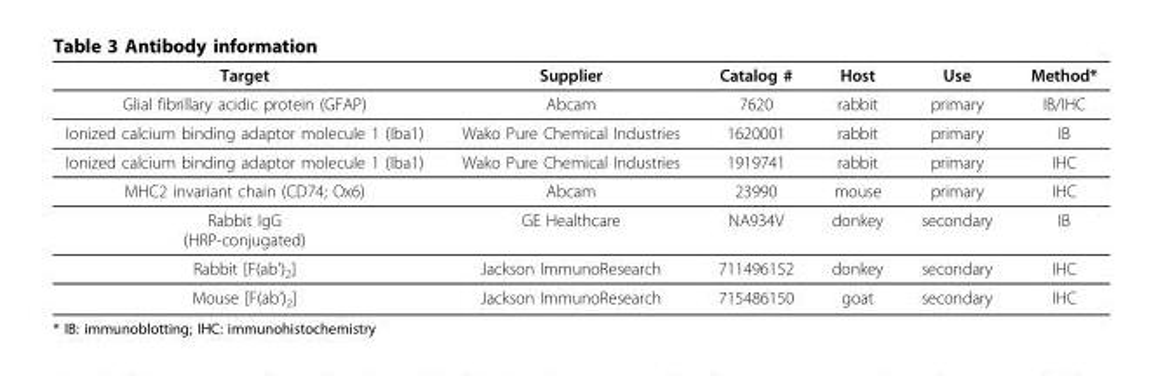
<table><thead><tr><td>Target</td><td>Supplier</td><td>Catalog #</td><td>Host</td><td>Use</td><td>Method*</td></tr></thead><tbody><tr><td>Glial fibrillary acidic protein (GFAP)</td><td>Abcam</td><td>7620</td><td>rabbit</td><td>primary</td><td>IB/IHC</td></tr><tr><td>Ionized calcium binding adaptor molecule 1 (Iba1)</td><td>Wako Pure Chemical Industries</td><td>1620001</td><td>rabbit</td><td>primary</td><td>IB</td></tr><tr><td>Ionized calcium binding adaptor molecule 1 (Iba1)</td><td>Wako Pure Chemical Industries</td><td>1919741</td><td>rabbit</td><td>primary</td><td>IHC</td></tr><tr><td>MHC2 invariant chain (CD74; Ox6)</td><td>Abcam</td><td>23990</td><td>mouse</td><td>primary</td><td>IHC</td></tr><tr><td>Rabbit IgG (HRP-conjugated)</td><td>GE Healthcare</td><td>NA934V</td><td>donkey</td><td>secondary</td><td>IB</td></tr><tr><td>Rabbit [F(ab’)<sub>2</sub>]</td><td>Jackson ImmunoResearch</td><td>711496152</td><td>donkey</td><td>secondary</td><td>IHC</td></tr><tr><td>Mouse [F(ab’)<sub>2</sub>]</td><td>Jackson ImmunoResearch</td><td>715486150</td><td>goat</td><td>secondary</td><td>IHC</td></tr></tbody></table>